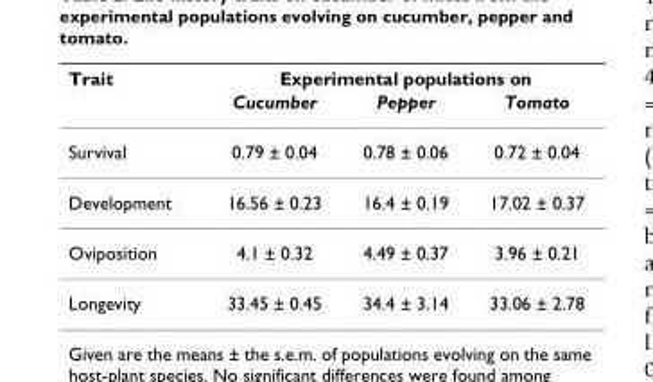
<table><thead><tr><td rowspan="2">Trait</td><td colspan="3">Experimental populations on</td></tr><tr><td>Cucumber</td><td>Pepper</td><td>Tomato</td></tr></thead><tbody><tr><td>Survival</td><td>0.79 ± 0.04</td><td>0.78 ± 0.06</td><td>0.72 ± 0.04</td></tr><tr><td>Development</td><td>16.56 ± 0.23</td><td>16.4 ± 0.19</td><td>17.02 ± 0.37</td></tr><tr><td>Oviposition</td><td>4.1 ± 0.32</td><td>4.49 ± 0.37</td><td>3.96 ± 0.21</td></tr><tr><td>Longevity</td><td>33.45 ± 0.45</td><td>34.4 ± 3.14</td><td>33.06 ± 2.78</td></tr></tbody></table>